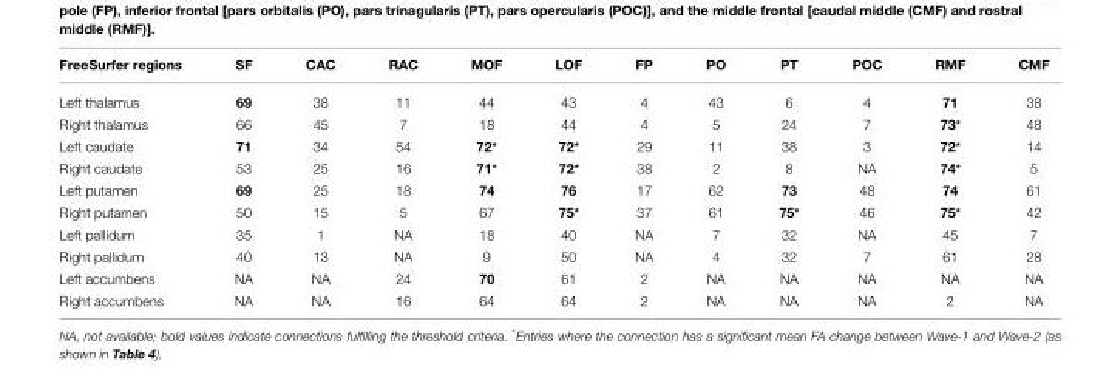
<table><thead><tr><td>FreeSurfer regions</td><td>SF</td><td>CAC</td><td>RAC</td><td>MOF</td><td>LOF</td><td>FP</td><td>PO</td><td>PT</td><td>POC</td><td>RMF</td><td>CMF</td></tr></thead><tbody><tr><td>Left thalamus</td><td>69</td><td>38</td><td>11</td><td>44</td><td>43</td><td>4</td><td>43</td><td>6</td><td>4</td><td>71</td><td>38</td></tr><tr><td>Right thalamus</td><td>66</td><td>45</td><td>7</td><td>18</td><td>44</td><td>4</td><td>5</td><td>24</td><td>7</td><td>73*</td><td>48</td></tr><tr><td>Left caudate</td><td>71</td><td>34</td><td>54</td><td>72*</td><td>72*</td><td>29</td><td>11</td><td>38</td><td>3</td><td>72*</td><td>14</td></tr><tr><td>Right caudate</td><td>53</td><td>25</td><td>16</td><td>71*</td><td>72*</td><td>38</td><td>2</td><td>8</td><td>NA</td><td>74*</td><td>5</td></tr><tr><td>Left putamen</td><td>69</td><td>25</td><td>18</td><td>74</td><td>76</td><td>17</td><td>62</td><td>73</td><td>48</td><td>74</td><td>61</td></tr><tr><td>Right putamen</td><td>50</td><td>15</td><td>5</td><td>67</td><td>75*</td><td>37</td><td>61</td><td>75*</td><td>46</td><td>75*</td><td>42</td></tr><tr><td>Left pallidum</td><td>35</td><td>1</td><td>NA</td><td>18</td><td>40</td><td>NA</td><td>7</td><td>32</td><td>NA</td><td>45</td><td>7</td></tr><tr><td>Right pallidum</td><td>40</td><td>13</td><td>NA</td><td>9</td><td>50</td><td>NA</td><td>4</td><td>32</td><td>7</td><td>61</td><td>28</td></tr><tr><td>Left accumbens</td><td>NA</td><td>NA</td><td>24</td><td>70</td><td>61</td><td>2</td><td>NA</td><td>NA</td><td>NA</td><td>NA</td><td>NA</td></tr><tr><td>Right accumbens</td><td>NA</td><td>NA</td><td>16</td><td>64</td><td>64</td><td>2</td><td>NA</td><td>NA</td><td>NA</td><td>2</td><td>NA</td></tr></tbody></table>